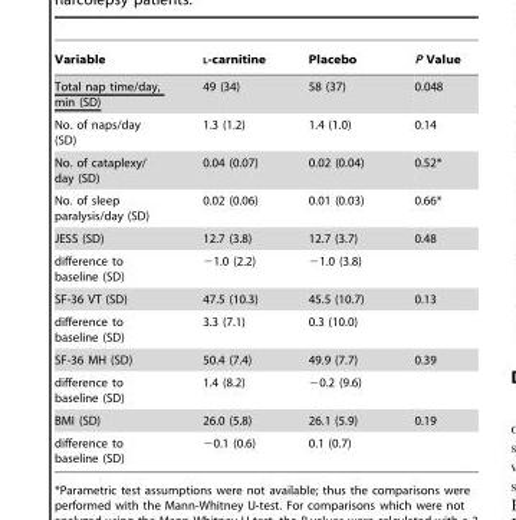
<table><thead><tr><td>Variable</td><td>L-carnitine</td><td>Placebo</td><td>P Value</td></tr></thead><tbody><tr><td>Total nap time/day, min (SD)</td><td>49 (34)</td><td>58 (37)</td><td>0.048</td></tr><tr><td>No. of naps/day (SD)</td><td>1.3 (1.2)</td><td>1.4 (1.0)</td><td>0.14</td></tr><tr><td>No. of cataplexy/ day (SD)</td><td>0.04 (0.07)</td><td>0.02 (0.04)</td><td>0.52*</td></tr><tr><td>No. of sleep paralysis/day (SD)</td><td>0.02 (0.06)</td><td>0.01 (0.03)</td><td>0.66*</td></tr><tr><td>JESS (SD)</td><td>12.7 (3.8)</td><td>12.7 (3.7)</td><td>0.48</td></tr><tr><td>difference to baseline (SD)</td><td>−1.0 (2.2)</td><td>−1.0 (3.8)</td><td></td></tr><tr><td>SF-36 VT (SD)</td><td>47.5 (10.3)</td><td>45.5 (10.7)</td><td>0.13</td></tr><tr><td>difference to baseline (SD)</td><td>3.3 (7.1)</td><td>0.3 (10.0)</td><td></td></tr><tr><td>SF-36 MH (SD)</td><td>50.4 (7.4)</td><td>49.9 (7.7)</td><td>0.39</td></tr><tr><td>difference to baseline (SD)</td><td>1.4 (8.2)</td><td>−0.2 (9.6)</td><td></td></tr><tr><td>BMI (SD)</td><td>26.0 (5.8)</td><td>26.1 (5.9)</td><td>0.19</td></tr><tr><td>difference to baseline (SD)</td><td>−0.1 (0.6)</td><td>0.1 (0.7)</td><td></td></tr></tbody></table>